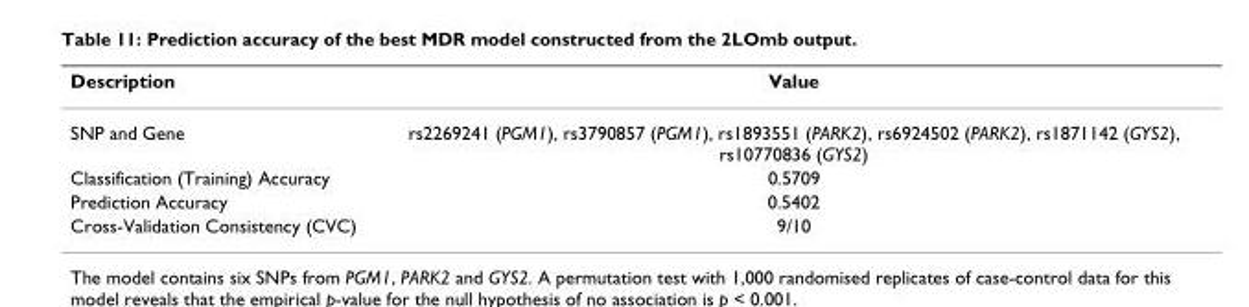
<table><thead><tr><td>Description</td><td>Value</td></tr></thead><tbody><tr><td>SNP and Gene</td><td>rs2269241 (PGM1), rs3790857 (PGM1), rs1893551 (PARK2), rs6924502 (PARK2), rs1871142 (GYS2), rs10770836 (GYS2)</td></tr><tr><td>Classification (Training) Accuracy</td><td>0.5709</td></tr><tr><td>Prediction Accuracy</td><td>0.5402</td></tr><tr><td>Cross-Validation Consistency (CVC)</td><td>9/10</td></tr></tbody></table>